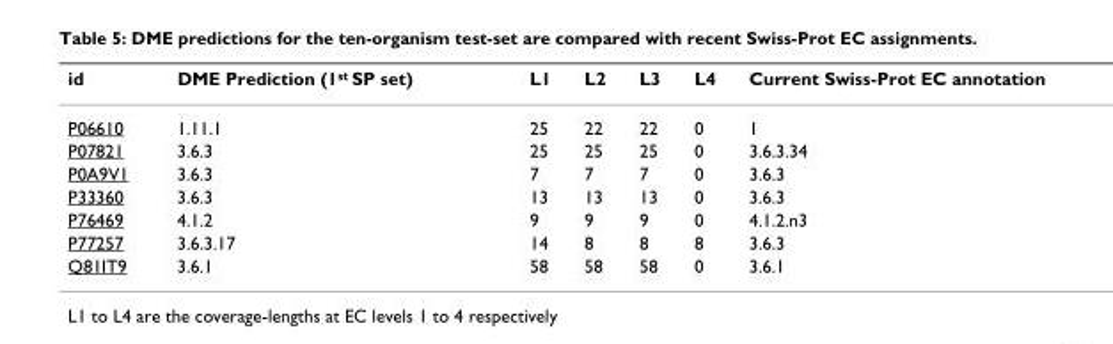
<table><thead><tr><td>id</td><td>DME Prediction (1<sup>st</sup> SP set)</td><td>L1</td><td>L2</td><td>L3</td><td>L4</td><td>Current Swiss-Prot EC annotation</td></tr></thead><tbody><tr><td>P06610</td><td>1.11.1</td><td>25</td><td>22</td><td>22</td><td>0</td><td>1</td></tr><tr><td>P07821</td><td>3.6.3</td><td>25</td><td>25</td><td>25</td><td>0</td><td>3.6.3.34</td></tr><tr><td>P0A9V1</td><td>3.6.3</td><td>7</td><td>7</td><td>7</td><td>0</td><td>3.6.3</td></tr><tr><td>P33360</td><td>3.6.3</td><td>13</td><td>13</td><td>13</td><td>0</td><td>3.6.3</td></tr><tr><td>P76469</td><td>4.1.2</td><td>9</td><td>9</td><td>9</td><td>0</td><td>4.1.2.n3</td></tr><tr><td>P77257</td><td>3.6.3.17</td><td>14</td><td>8</td><td>8</td><td>8</td><td>3.6.3</td></tr><tr><td>Q81IT9</td><td>3.6.1</td><td>58</td><td>58</td><td>58</td><td>0</td><td>3.6.1</td></tr></tbody></table>